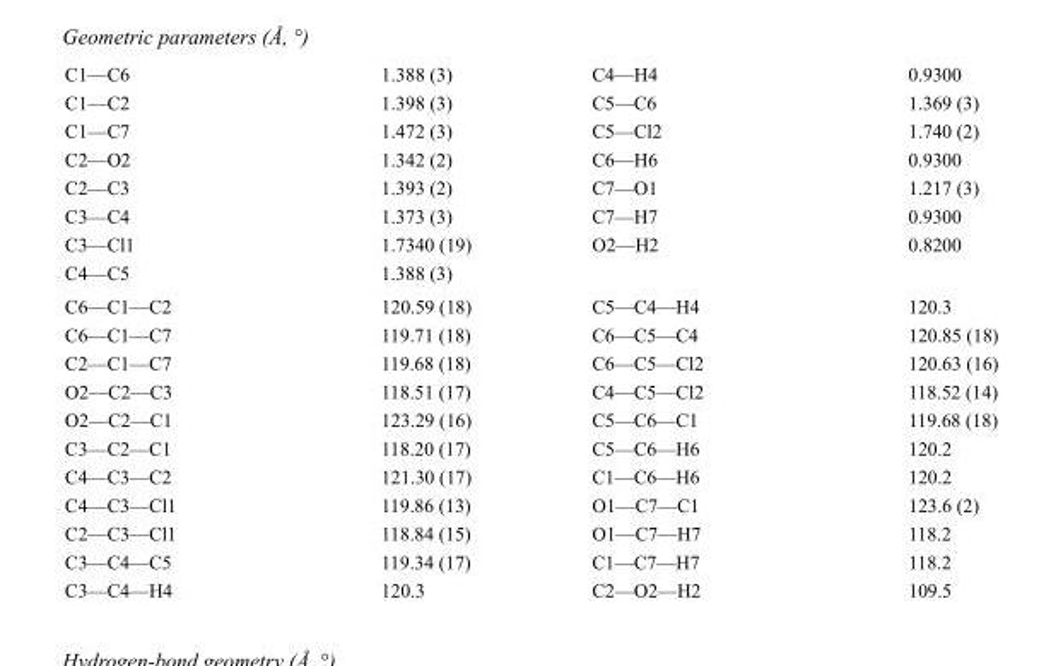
<table><tbody><tr><td>C1—C6</td><td>1.388 (3)</td><td>C4—H4</td><td>0.9300</td></tr><tr><td>C1—C2</td><td>1.398 (3)</td><td>C5—C6</td><td>1.369 (3)</td></tr><tr><td>C1—C7</td><td>1.472 (3)</td><td>C5—Cl2</td><td>1.740 (2)</td></tr><tr><td>C2—O2</td><td>1.342 (2)</td><td>C6—H6</td><td>0.9300</td></tr><tr><td>C2—C3</td><td>1.393 (2)</td><td>C7—O1</td><td>1.217 (3)</td></tr><tr><td>C3—C4</td><td>1.373 (3)</td><td>C7—H7</td><td>0.9300</td></tr><tr><td>C3—Cl1</td><td>1.7340 (19)</td><td>O2—H2</td><td>0.8200</td></tr><tr><td>C4—C5</td><td>1.388 (3)</td><td></td><td></td></tr><tr><td>C6—C1—C2</td><td>120.59 (18)</td><td>C5—C4—H4</td><td>120.3</td></tr><tr><td>C6—C1—C7</td><td>119.71 (18)</td><td>C6—C5—C4</td><td>120.85 (18)</td></tr><tr><td>C2—C1—C7</td><td>119.68 (18)</td><td>C6—C5—Cl2</td><td>120.63 (16)</td></tr><tr><td>O2—C2—C3</td><td>118.51 (17)</td><td>C4—C5—Cl2</td><td>118.52 (14)</td></tr><tr><td>O2—C2—C1</td><td>123.29 (16)</td><td>C5—C6—C1</td><td>119.68 (18)</td></tr><tr><td>C3—C2—C1</td><td>118.20 (17)</td><td>C5—C6—H6</td><td>120.2</td></tr><tr><td>C4—C3—C2</td><td>121.30 (17)</td><td>C1—C6—H6</td><td>120.2</td></tr><tr><td>C4—C3—Cl1</td><td>119.86 (13)</td><td>O1—C7—C1</td><td>123.6 (2)</td></tr><tr><td>C2—C3—Cl1</td><td>118.84 (15)</td><td>O1—C7—H7</td><td>118.2</td></tr><tr><td>C3—C4—C5</td><td>119.34 (17)</td><td>C1—C7—H7</td><td>118.2</td></tr><tr><td>C3—C4—H4</td><td>120.3</td><td>C2—O2—H2</td><td>109.5</td></tr></tbody></table>